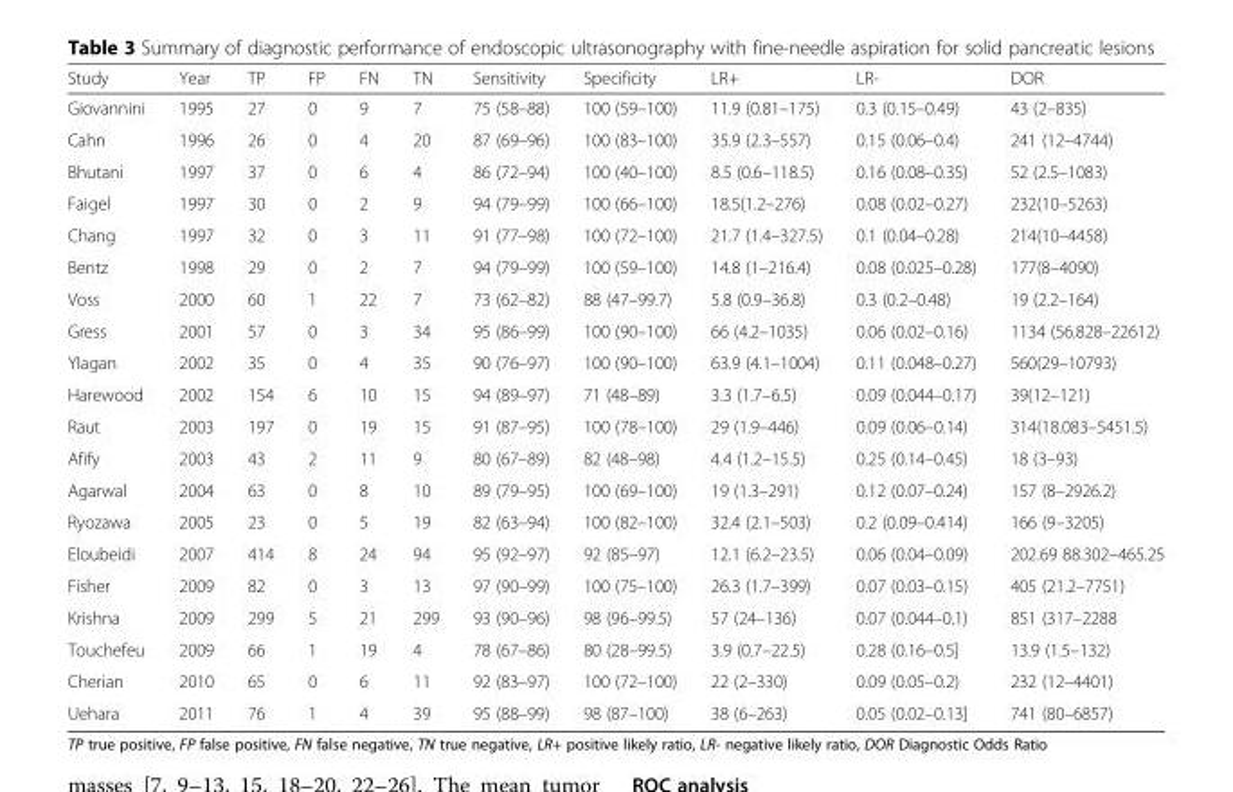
<table><thead><tr><td>Study</td><td>Year</td><td>TP</td><td>FP</td><td>FN</td><td>TN</td><td>Sensitivity</td><td>Specificity</td><td>LR+</td><td>LR-</td><td>DOR</td></tr></thead><tbody><tr><td>Giovannini</td><td>1995</td><td>27</td><td>0</td><td>9</td><td>7</td><td>75 (58–88)</td><td>100 (59–100)</td><td>11.9 (0.81–175)</td><td>0.3 (0.15–0.49)</td><td>43 (2–835)</td></tr><tr><td>Cahn</td><td>1996</td><td>26</td><td>0</td><td>4</td><td>20</td><td>87 (69–96)</td><td>100 (83–100)</td><td>35.9 (2.3–557)</td><td>0.15 (0.06–0.4)</td><td>241 (12–4744)</td></tr><tr><td>Bhutani</td><td>1997</td><td>37</td><td>0</td><td>6</td><td>4</td><td>86 (72–94)</td><td>100 (40–100)</td><td>8.5 (0.6–118.5)</td><td>0.16 (0.08–0.35)</td><td>52 (2.5–1083)</td></tr><tr><td>Faigel</td><td>1997</td><td>30</td><td>0</td><td>2</td><td>9</td><td>94 (79–99)</td><td>100 (66–100)</td><td>18.5(1.2–276)</td><td>0.08 (0.02–0.27)</td><td>232(10–5263)</td></tr><tr><td>Chang</td><td>1997</td><td>32</td><td>0</td><td>3</td><td>11</td><td>91 (77–98)</td><td>100 (72–100)</td><td>21.7 (1.4–327.5)</td><td>0.1 (0.04–0.28)</td><td>214(10–4458)</td></tr><tr><td>Bentz</td><td>1998</td><td>29</td><td>0</td><td>2</td><td>7</td><td>94 (79–99)</td><td>100 (59–100)</td><td>14.8 (1–216.4)</td><td>0.08 (0.025–0.28)</td><td>177(8–4090)</td></tr><tr><td>Voss</td><td>2000</td><td>60</td><td>1</td><td>22</td><td>7</td><td>73 (62–82)</td><td>88 (47–99.7)</td><td>5.8 (0.9–36.8)</td><td>0.3 (0.2–0.48)</td><td>19 (2.2–164)</td></tr><tr><td>Gress</td><td>2001</td><td>57</td><td>0</td><td>3</td><td>34</td><td>95 (86–99)</td><td>100 (90–100)</td><td>66 (4.2–1035)</td><td>0.06 (0.02–0.16)</td><td>1134 (56.828–22612)</td></tr><tr><td>Ylagan</td><td>2002</td><td>35</td><td>0</td><td>4</td><td>35</td><td>90 (76–97)</td><td>100 (90–100)</td><td>63.9 (4.1–1004)</td><td>0.11 (0.048–0.27)</td><td>560(29–10793)</td></tr><tr><td>Harewood</td><td>2002</td><td>154</td><td>6</td><td>10</td><td>15</td><td>94 (89–97)</td><td>71 (48–89)</td><td>3.3 (1.7–6.5)</td><td>0.09 (0.044–0.17)</td><td>39(12–121)</td></tr><tr><td>Raut</td><td>2003</td><td>197</td><td>0</td><td>19</td><td>15</td><td>91 (87–95)</td><td>100 (78–100)</td><td>29 (1.9–446)</td><td>0.09 (0.06–0.14)</td><td>314(18.083–5451.5)</td></tr><tr><td>Afify</td><td>2003</td><td>43</td><td>2</td><td>11</td><td>9</td><td>80 (67–89)</td><td>82 (48–98)</td><td>4.4 (1.2–15.5)</td><td>0.25 (0.14–0.45)</td><td>18 (3–93)</td></tr><tr><td>Agarwal</td><td>2004</td><td>63</td><td>0</td><td>8</td><td>10</td><td>89 (79–95)</td><td>100 (69–100)</td><td>19 (1.3–291)</td><td>0.12 (0.07–0.24)</td><td>157 (8–2926.2)</td></tr><tr><td>Ryozawa</td><td>2005</td><td>23</td><td>0</td><td>5</td><td>19</td><td>82 (63–94)</td><td>100 (82–100)</td><td>32.4 (2.1–503)</td><td>0.2 (0.09–0.414)</td><td>166 (9–3205)</td></tr><tr><td>Eloubeidi</td><td>2007</td><td>414</td><td>8</td><td>24</td><td>94</td><td>95 (92–97)</td><td>92 (85–97)</td><td>12.1 (6.2–23.5)</td><td>0.06 (0.04–0.09)</td><td>202.69 88.302–465.25</td></tr><tr><td>Fisher</td><td>2009</td><td>82</td><td>0</td><td>3</td><td>13</td><td>97 (90–99)</td><td>100 (75–100)</td><td>26.3 (1.7–399)</td><td>0.07 (0.03–0.15)</td><td>405 (21.2–7751)</td></tr><tr><td>Krishna</td><td>2009</td><td>299</td><td>5</td><td>21</td><td>299</td><td>93 (90–96)</td><td>98 (96–99.5)</td><td>57 (24–136)</td><td>0.07 (0.044–0.1)</td><td>851 (317–2288</td></tr><tr><td>Touchefeu</td><td>2009</td><td>66</td><td>1</td><td>19</td><td>4</td><td>78 (67–86)</td><td>80 (28–99.5)</td><td>3.9 (0.7–22.5)</td><td>0.28 (0.16–0.5]</td><td>13.9 (1.5–132)</td></tr><tr><td>Cherian</td><td>2010</td><td>65</td><td>0</td><td>6</td><td>11</td><td>92 (83–97)</td><td>100 (72–100)</td><td>22 (2–330)</td><td>0.09 (0.05–0.2)</td><td>232 (12–4401)</td></tr><tr><td>Uehara</td><td>2011</td><td>76</td><td>1</td><td>4</td><td>39</td><td>95 (88–99)</td><td>98 (87–100)</td><td>38 (6–263)</td><td>0.05 (0.02–0.13]</td><td>741 (80–6857)</td></tr></tbody></table>